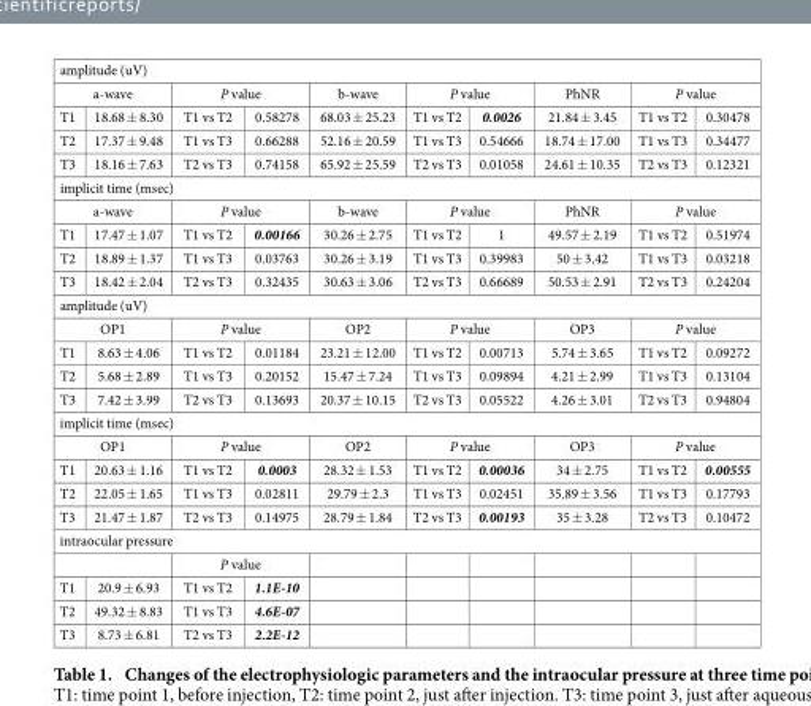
<table><tbody><tr><td colspan="10">amplitude (uV)</td></tr><tr><td colspan="2">a-wave</td><td colspan="2">P value</td><td>b-wave</td><td colspan="2">P value</td><td>PhNR</td><td colspan="2">P value</td></tr><tr><td>T1</td><td>18.68 ± 8.30</td><td>T1 vs T2</td><td>0.58278</td><td>68.03 ± 25.23</td><td>T1 vs T2</td><td>0.0026</td><td>21.84 ± 3.45</td><td>T1 vs T2</td><td>0.30478</td></tr><tr><td>T2</td><td>17.37 ± 9.48</td><td>T1 vs T3</td><td>0.66288</td><td>52.16 ± 20.59</td><td>T1 vs T3</td><td>0.54666</td><td>18.74 ± 17.00</td><td>T1 vs T3</td><td>0.34477</td></tr><tr><td>T3</td><td>18.16 ± 7.63</td><td>T2 vs T3</td><td>0.74158</td><td>65.92 ± 25.59</td><td>T2 vs T3</td><td>0.01058</td><td>24.61 ± 10.35</td><td>T2 vs T3</td><td>0.12321</td></tr><tr><td colspan="10">implicit time (msec)</td></tr><tr><td colspan="2">a-wave</td><td colspan="2">P value</td><td>b-wave</td><td colspan="2">P value</td><td>PhNR</td><td colspan="2">P value</td></tr><tr><td>T1</td><td>17.47 ± 1.07</td><td>T1 vs T2</td><td>0.00166</td><td>30.26 ± 2.75</td><td>T1 vs T2</td><td>1</td><td>49.57 ± 2.19</td><td>T1 vs T2</td><td>0.51974</td></tr><tr><td>T2</td><td>18.89 ± 1.37</td><td>T1 vs T3</td><td>0.03763</td><td>30.26 ± 3.19</td><td>T1 vs T3</td><td>0.39983</td><td>50 ± 3.42</td><td>T1 vs T3</td><td>0.03218</td></tr><tr><td>T3</td><td>18.42 ± 2.04</td><td>T2 vs T3</td><td>0.32435</td><td>30.63 ± 3.06</td><td>T2 vs T3</td><td>0.66689</td><td>50.53 ± 2.91</td><td>T2 vs T3</td><td>0.24204</td></tr><tr><td colspan="10">amplitude (uV)</td></tr><tr><td colspan="2">OP1</td><td colspan="2">P value</td><td>OP2</td><td colspan="2">P value</td><td>OP3</td><td colspan="2">P value</td></tr><tr><td>T1</td><td>8.63 ± 4.06</td><td>T1 vs T2</td><td>0.01184</td><td>23.21 ± 12.00</td><td>T1 vs T2</td><td>0.00713</td><td>5.74 ± 3.65</td><td>T1 vs T2</td><td>0.09272</td></tr><tr><td>T2</td><td>5.68 ± 2.89</td><td>T1 vs T3</td><td>0.20152</td><td>15.47 ± 7.24</td><td>T1 vs T3</td><td>0.09894</td><td>4.21 ± 2.99</td><td>T1 vs T3</td><td>0.13104</td></tr><tr><td>T3</td><td>7.42 ± 3.99</td><td>T2 vs T3</td><td>0.13693</td><td>20.37 ± 10.15</td><td>T2 vs T3</td><td>0.05522</td><td>4.26 ± 3.01</td><td>T2 vs T3</td><td>0.94804</td></tr><tr><td colspan="10">implicit time (msec)</td></tr><tr><td colspan="2">OP1</td><td colspan="2">P value</td><td>OP2</td><td colspan="2">P value</td><td>OP3</td><td colspan="2">P value</td></tr><tr><td>T1</td><td>20.63 ± 1.16</td><td>T1 vs T2</td><td>0.0003</td><td>28.32 ± 1.53</td><td>T1 vs T2</td><td>0.00036</td><td>34 ± 2.75</td><td>T1 vs T2</td><td>0.00555</td></tr><tr><td>T2</td><td>22.05 ± 1.65</td><td>T1 vs T3</td><td>0.02811</td><td>29.79 ± 2.3</td><td>T1 vs T3</td><td>0.02451</td><td>35.89 ± 3.56</td><td>T1 vs T3</td><td>0.17793</td></tr><tr><td>T3</td><td>21.47 ± 1.87</td><td>T2 vs T3</td><td>0.14975</td><td>28.79 ± 1.84</td><td>T2 vs T3</td><td>0.00193</td><td>35 ± 3.28</td><td>T2 vs T3</td><td>0.10472</td></tr><tr><td colspan="10">intraocular pressure</td></tr><tr><td colspan="2"></td><td colspan="2">P value</td><td></td><td></td><td></td><td></td><td></td><td></td></tr><tr><td>T1</td><td>20.9 ± 6.93</td><td>T1 vs T2</td><td>1.1E-10</td><td></td><td></td><td></td><td></td><td></td><td></td></tr><tr><td>T2</td><td>49.32 ± 8.83</td><td>T1 vs T3</td><td>4.6E-07</td><td></td><td></td><td></td><td></td><td></td><td></td></tr><tr><td>T3</td><td>8.73 ± 6.81</td><td>T2 vs T3</td><td>2.2E-12</td><td></td><td></td><td></td><td></td><td></td><td></td></tr></tbody></table>